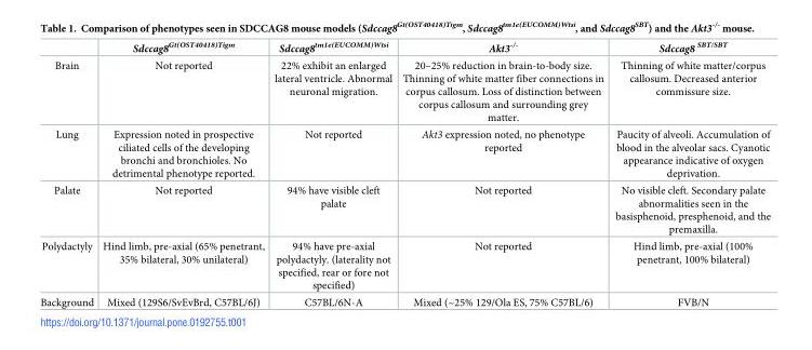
<table><thead><tr><td></td><td>Sdccag8<sup>Gt(OST40418)Tigm</sup></td><td>Sdccag8<sup>tm1e(EUCOMM)Wtsi</sup></td><td>Akt3<sup>-/-</sup></td><td>Sdccag8 <sup>SBT/SBT</sup></td></tr></thead><tbody><tr><td>Brain</td><td>Not reported</td><td>22% exhibit an enlarged lateral ventricle. Abnormal neuronal migration.</td><td>20–25% reduction in brain-to-body size. Thinning of white matter fiber connections in corpus callosum. Loss of distinction between corpus callosum and surrounding grey matter.</td><td>Thinning of white matter/corpus callosum. Decreased anterior commissure size.</td></tr><tr><td>Lung</td><td>Expression noted in prospective ciliated cells of the developing bronchi and bronchioles. No detrimental phenotype reported.</td><td>Not reported</td><td>Akt3 expression noted, no phenotype reported</td><td>Paucity of alveoli. Accumulation of blood in the alveolar sacs. Cyanotic appearance indicative of oxygen deprivation.</td></tr><tr><td>Palate</td><td>Not reported</td><td>94% have visible cleft palate</td><td>Not reported</td><td>No visible cleft. Secondary palate abnormalities seen in the basisphenoid, presphenoid, and the premaxilla.</td></tr><tr><td>Polydactyly</td><td>Hind limb, pre-axial (65% penetrant, 35% bilateral, 30% unilateral)</td><td>94% have pre-axial polydactyly. (laterality not specified, rear or fore not specified)</td><td>Not reported</td><td>Hind limb, pre-axial (100% penetrant, 100% bilateral)</td></tr><tr><td>Background</td><td>Mixed (129S6/SvEvBrd, C57BL/6J)</td><td>C57BL/6N-A</td><td>Mixed (~25% 129/Ola ES, 75% C57BL/6)</td><td>FVB/N</td></tr></tbody></table>